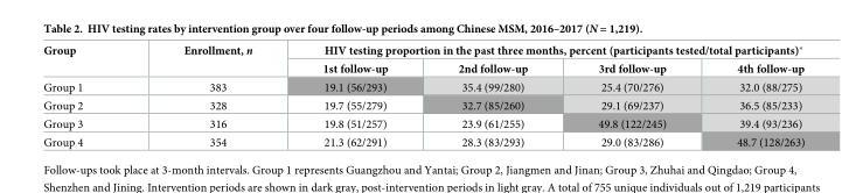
<table><thead><tr><td rowspan="2">Group</td><td rowspan="2">Enrollment, n</td><td colspan="4">HIV testing proportion in the past three months, percent (participants tested/total participants)*</td></tr><tr><td>1st follow-up</td><td>2nd follow-up</td><td>3rd follow-up</td><td>4th follow-up</td></tr></thead><tbody><tr><td>Group 1</td><td>383</td><td>19.1 (56/293)</td><td>35.4 (99/280)</td><td>25.4 (70/276)</td><td>32.0 (88/275)</td></tr><tr><td>Group 2</td><td>328</td><td>19.7 (55/279)</td><td>32.7 (85/260)</td><td>29.1 (69/237)</td><td>36.5 (85/233)</td></tr><tr><td>Group 3</td><td>316</td><td>19.8 (51/257)</td><td>23.9 (61/255)</td><td>49.8 (122/245)</td><td>39.4 (93/236)</td></tr><tr><td>Group 4</td><td>354</td><td>21.3 (62/291)</td><td>28.3 (83/293)</td><td>29.0 (83/286)</td><td>48.7 (128/263)</td></tr></tbody></table>